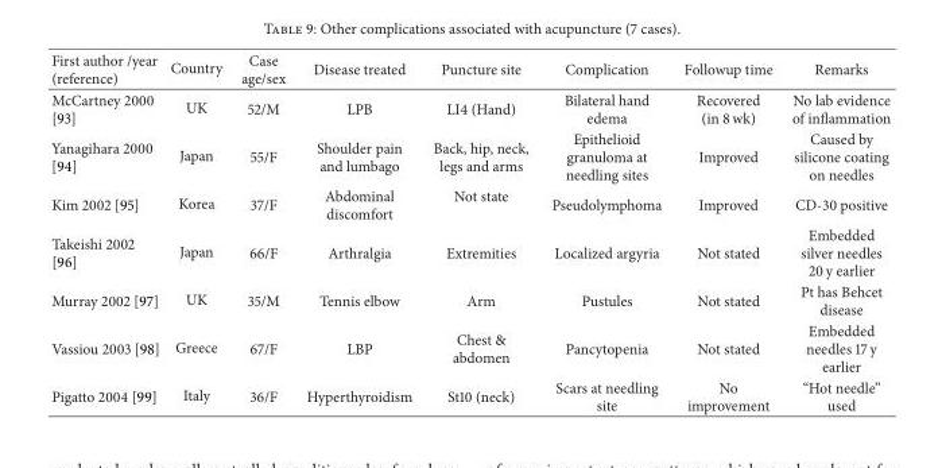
<table><thead><tr><td>First author /year (reference)</td><td>Country</td><td>Case age/sex</td><td>Disease treated</td><td>Puncture site</td><td>Complication</td><td>Followup time</td><td>Remarks</td></tr></thead><tbody><tr><td>McCartney 2000 [93]</td><td>UK</td><td>52/M</td><td>LPB</td><td>LI4 (Hand)</td><td>Bilateral hand edema</td><td>Recovered (in 8 wk)</td><td>No lab evidence of inflammation</td></tr><tr><td>Yanagihara 2000 [94]</td><td>Japan</td><td>55/F</td><td>Shoulder pain and lumbago</td><td>Back, hip, neck, legs and arms</td><td>Epithelioid granuloma at needling sites</td><td>Improved</td><td>Caused by silicone coating on needles</td></tr><tr><td>Kim 2002 [95]</td><td>Korea</td><td>37/F</td><td>Abdominal discomfort</td><td>Not state</td><td>Pseudolymphoma</td><td>Improved</td><td>CD-30 positive</td></tr><tr><td>Takeishi 2002 [96]</td><td>Japan</td><td>66/F</td><td>Arthralgia</td><td>Extremities</td><td>Localized argyria</td><td>Not stated</td><td>Embedded silver needles 20 y earlier</td></tr><tr><td>Murray 2002 [97]</td><td>UK</td><td>35/M</td><td>Tennis elbow</td><td>Arm</td><td>Pustules</td><td>Not stated</td><td>Pt has Behcet disease</td></tr><tr><td>Vassiou 2003 [98]</td><td>Greece</td><td>67/F</td><td>LBP</td><td>Chest &amp; abdomen</td><td>Pancytopenia</td><td>Not stated</td><td>Embedded needles 17 y earlier</td></tr><tr><td>Pigatto 2004 [99]</td><td>Italy</td><td>36/F</td><td>Hyperthyroidism</td><td>St10 (neck)</td><td>Scars at needling site</td><td>No improvement</td><td>“Hot needle” used</td></tr></tbody></table>